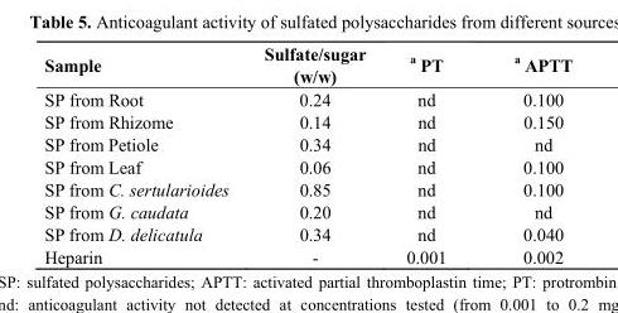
<table><thead><tr><td>Sample</td><td>Sulfate/sugar (w/w)</td><td>a PT</td><td>a APTT</td></tr></thead><tbody><tr><td>SP from Root</td><td>0.24</td><td>nd</td><td>0.100</td></tr><tr><td>SP from Rhizome</td><td>0.14</td><td>nd</td><td>0.150</td></tr><tr><td>SP from Petiole</td><td>0.34</td><td>nd</td><td>nd</td></tr><tr><td>SP from Leaf</td><td>0.06</td><td>nd</td><td>0.100</td></tr><tr><td>SP from C. sertularioides</td><td>0.85</td><td>nd</td><td>0.100</td></tr><tr><td>SP from G. caudata</td><td>0.20</td><td>nd</td><td>nd</td></tr><tr><td>SP from D. delicatula</td><td>0.34</td><td>nd</td><td>0.040</td></tr><tr><td>Heparin</td><td>-</td><td>0.001</td><td>0.002</td></tr></tbody></table>